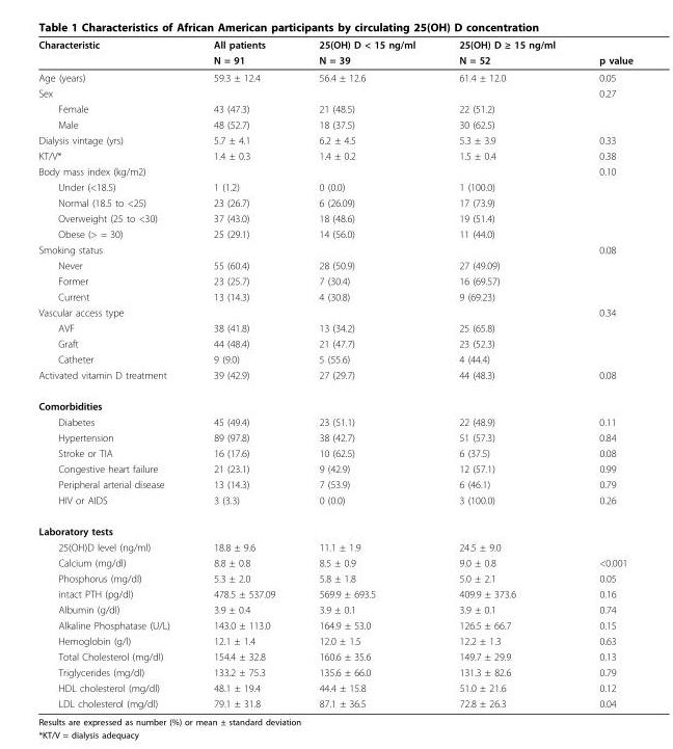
<table><thead><tr><td rowspan="2">Characteristic</td><td rowspan="2">All patients N = 91</td><td rowspan="2">25(OH) D &lt; 15 ng/ml N = 39</td><td rowspan="2">25(OH) D ≥ 15 ng/ml N = 52</td><td rowspan="2">p value</td></tr><tr></tr></thead><tbody><tr><td>Age (years)</td><td>59.3 ± 12.4</td><td>56.4 ± 12.6</td><td>61.4 ± 12.0</td><td>0.05</td></tr><tr><td>Sex</td><td></td><td></td><td></td><td>0.27</td></tr><tr><td>Female</td><td>43 (47.3)</td><td>21 (48.5)</td><td>22 (51.2)</td><td></td></tr><tr><td>Male</td><td>48 (52.7)</td><td>18 (37.5)</td><td>30 (62.5)</td><td></td></tr><tr><td>Dialysis vintage (yrs)</td><td>5.7 ± 4.1</td><td>6.2 ± 4.5</td><td>5.3 ± 3.9</td><td>0.33</td></tr><tr><td>KT/V*</td><td>1.4 ± 0.3</td><td>1.4 ± 0.2</td><td>1.5 ± 0.4</td><td>0.38</td></tr><tr><td>Body mass index (kg/m2)</td><td></td><td></td><td></td><td>0.10</td></tr><tr><td>Under (&lt;18.5)</td><td>1 (1.2)</td><td>0 (0.0)</td><td>1 (100.0)</td><td></td></tr><tr><td>Normal (18.5 to &lt;25)</td><td>23 (26.7)</td><td>6 (26.09)</td><td>17 (73.9)</td><td></td></tr><tr><td>Overweight (25 to &lt;30)</td><td>37 (43.0)</td><td>18 (48.6)</td><td>19 (51.4)</td><td></td></tr><tr><td>Obese (&gt; = 30)</td><td>25 (29.1)</td><td>14 (56.0)</td><td>11 (44.0)</td><td></td></tr><tr><td>Smoking status</td><td></td><td></td><td></td><td>0.08</td></tr><tr><td>Never</td><td>55 (60.4)</td><td>28 (50.9)</td><td>27 (49.09)</td><td></td></tr><tr><td>Former</td><td>23 (25.7)</td><td>7 (30.4)</td><td>16 (69.57)</td><td></td></tr><tr><td>Current</td><td>13 (14.3)</td><td>4 (30.8)</td><td>9 (69.23)</td><td></td></tr><tr><td>Vascular access type</td><td></td><td></td><td></td><td>0.34</td></tr><tr><td>AVF</td><td>38 (41.8)</td><td>13 (34.2)</td><td>25 (65.8)</td><td></td></tr><tr><td>Graft</td><td>44 (48.4)</td><td>21 (47.7)</td><td>23 (52.3)</td><td></td></tr><tr><td>Catheter</td><td>9 (9.0)</td><td>5 (55.6)</td><td>4 (44.4)</td><td></td></tr><tr><td>Activated vitamin D treatment</td><td>39 (42.9)</td><td>27 (29.7)</td><td>44 (48.3)</td><td>0.08</td></tr><tr><td colspan="5">Comorbidities</td></tr><tr><td>Diabetes</td><td>45 (49.4)</td><td>23 (51.1)</td><td>22 (48.9)</td><td>0.11</td></tr><tr><td>Hypertension</td><td>89 (97.8)</td><td>38 (42.7)</td><td>51 (57.3)</td><td>0.84</td></tr><tr><td>Stroke or TIA</td><td>16 (17.6)</td><td>10 (62.5)</td><td>6 (37.5)</td><td>0.08</td></tr><tr><td>Congestive heart failure</td><td>21 (23.1)</td><td>9 (42.9)</td><td>12 (57.1)</td><td>0.99</td></tr><tr><td>Peripheral arterial disease</td><td>13 (14.3)</td><td>7 (53.9)</td><td>6 (46.1)</td><td>0.79</td></tr><tr><td>HIV or AIDS</td><td>3 (3.3)</td><td>0 (0.0)</td><td>3 (100.0)</td><td>0.26</td></tr><tr><td colspan="5">Laboratory tests</td></tr><tr><td>25(OH)D level (ng/ml)</td><td>18.8 ± 9.6</td><td>11.1 ± 1.9</td><td>24.5 ± 9.0</td><td></td></tr><tr><td>Calcium (mg/dl)</td><td>8.8 ± 0.8</td><td>8.5 ± 0.9</td><td>9.0 ± 0.8</td><td>&lt;0.001</td></tr><tr><td>Phosphorus (mg/dl)</td><td>5.3 ± 2.0</td><td>5.8 ± 1.8</td><td>5.0 ± 2.1</td><td>0.05</td></tr><tr><td>intact PTH (pg/dl)</td><td>478.5 ± 537.09</td><td>569.9 ± 693.5</td><td>409.9 ± 373.6</td><td>0.16</td></tr><tr><td>Albumin (g/dl)</td><td>3.9 ± 0.4</td><td>3.9 ± 0.1</td><td>3.9 ± 0.1</td><td>0.74</td></tr><tr><td>Alkaline Phosphatase (U/L)</td><td>143.0 ± 113.0</td><td>164.9 ± 53.0</td><td>126.5 ± 66.7</td><td>0.15</td></tr><tr><td>Hemoglobin (g/l)</td><td>12.1 ± 1.4</td><td>12.0 ± 1.5</td><td>12.2 ± 1.3</td><td>0.63</td></tr><tr><td>Total Cholesterol (mg/dl)</td><td>154.4 ± 32.8</td><td>160.6 ± 35.6</td><td>149.7 ± 29.9</td><td>0.13</td></tr><tr><td>Triglycerides (mg/dl)</td><td>133.2 ± 75.3</td><td>135.6 ± 66.0</td><td>131.3 ± 82.6</td><td>0.79</td></tr><tr><td>HDL cholesterol (mg/dl)</td><td>48.1 ± 19.4</td><td>44.4 ± 15.8</td><td>51.0 ± 21.6</td><td>0.12</td></tr><tr><td>LDL cholesterol (mg/dl)</td><td>79.1 ± 31.8</td><td>87.1 ± 36.5</td><td>72.8 ± 26.3</td><td>0.04</td></tr></tbody></table>